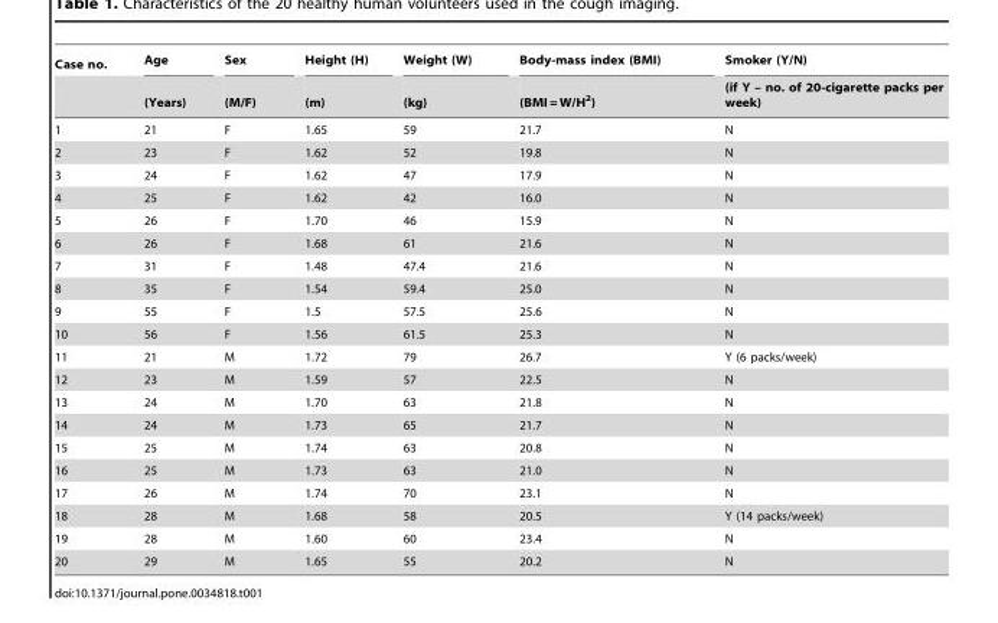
<table><thead><tr><td rowspan="2">Case no.</td><td rowspan="2">Age (Years)</td><td rowspan="2">Sex (M/F)</td><td rowspan="2">Height (H) (m)</td><td rowspan="2">Weight (W) (kg)</td><td rowspan="2">Body-mass index (BMI) (BMI = W/H<sup>2</sup>)</td><td rowspan="2">Smoker (Y/N) (if Y – no. of 20-cigarette packs per week)</td></tr><tr></tr></thead><tbody><tr><td>1</td><td>21</td><td>F</td><td>1.65</td><td>59</td><td>21.7</td><td>N</td></tr><tr><td>2</td><td>23</td><td>F</td><td>1.62</td><td>52</td><td>19.8</td><td>N</td></tr><tr><td>3</td><td>24</td><td>F</td><td>1.62</td><td>47</td><td>17.9</td><td>N</td></tr><tr><td>4</td><td>25</td><td>F</td><td>1.62</td><td>42</td><td>16.0</td><td>N</td></tr><tr><td>5</td><td>26</td><td>F</td><td>1.70</td><td>46</td><td>15.9</td><td>N</td></tr><tr><td>6</td><td>26</td><td>F</td><td>1.68</td><td>61</td><td>21.6</td><td>N</td></tr><tr><td>7</td><td>31</td><td>F</td><td>1.48</td><td>47.4</td><td>21.6</td><td>N</td></tr><tr><td>8</td><td>35</td><td>F</td><td>1.54</td><td>59.4</td><td>25.0</td><td>N</td></tr><tr><td>9</td><td>55</td><td>F</td><td>1.5</td><td>57.5</td><td>25.6</td><td>N</td></tr><tr><td>10</td><td>56</td><td>F</td><td>1.56</td><td>61.5</td><td>25.3</td><td>N</td></tr><tr><td>11</td><td>21</td><td>M</td><td>1.72</td><td>79</td><td>26.7</td><td>Y (6 packs/week)</td></tr><tr><td>12</td><td>23</td><td>M</td><td>1.59</td><td>57</td><td>22.5</td><td>N</td></tr><tr><td>13</td><td>24</td><td>M</td><td>1.70</td><td>63</td><td>21.8</td><td>N</td></tr><tr><td>14</td><td>24</td><td>M</td><td>1.73</td><td>65</td><td>21.7</td><td>N</td></tr><tr><td>15</td><td>25</td><td>M</td><td>1.74</td><td>63</td><td>20.8</td><td>N</td></tr><tr><td>16</td><td>25</td><td>M</td><td>1.73</td><td>63</td><td>21.0</td><td>N</td></tr><tr><td>17</td><td>26</td><td>M</td><td>1.74</td><td>70</td><td>23.1</td><td>N</td></tr><tr><td>18</td><td>28</td><td>M</td><td>1.68</td><td>58</td><td>20.5</td><td>Y (14 packs/week)</td></tr><tr><td>19</td><td>28</td><td>M</td><td>1.60</td><td>60</td><td>23.4</td><td>N</td></tr><tr><td>20</td><td>29</td><td>M</td><td>1.65</td><td>55</td><td>20.2</td><td>N</td></tr></tbody></table>